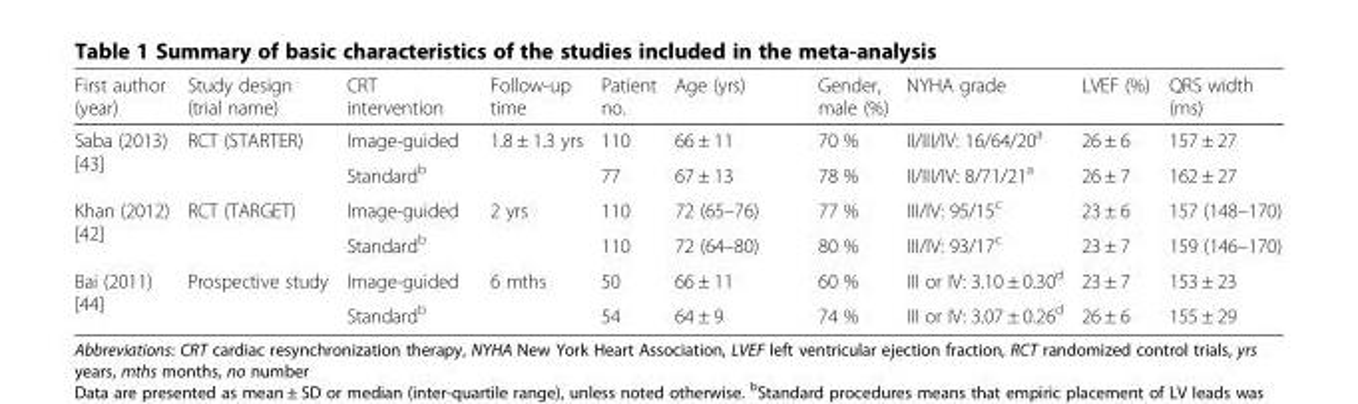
<table><thead><tr><td>First author (year)</td><td>Study design (trial name)</td><td>CRT intervention</td><td>Follow-up time</td><td>Patient no.</td><td>Age (yrs)</td><td>Gender, male (%)</td><td>NYHA grade</td><td>LVEF (%)</td><td>QRS width (ms)</td></tr></thead><tbody><tr><td rowspan="2">Saba (2013) [43]</td><td rowspan="2">RCT (STARTER)</td><td>Image-guided</td><td rowspan="2">1.8 ± 1.3 yrs</td><td>110</td><td>66 ± 11</td><td>70 %</td><td>II/III/IV: 16/64/20<sup>a</sup></td><td>26 ± 6</td><td>157 ± 27</td></tr><tr><td>Standard<sup>b</sup></td><td>77</td><td>67 ± 13</td><td>78 %</td><td>II/III/IV: 8/71/21<sup>a</sup></td><td>26 ± 7</td><td>162 ± 27</td></tr><tr><td rowspan="2">Khan (2012) [42]</td><td rowspan="2">RCT (TARGET)</td><td>Image-guided</td><td rowspan="2">2 yrs</td><td>110</td><td>72 (65–76)</td><td>77 %</td><td>III/IV: 95/15<sup>c</sup></td><td>23 ± 6</td><td>157 (148–170)</td></tr><tr><td>Standard<sup>b</sup></td><td>110</td><td>72 (64–80)</td><td>80 %</td><td>III/IV: 93/17<sup>c</sup></td><td>23 ± 7</td><td>159 (146–170)</td></tr><tr><td rowspan="2">Bai (2011) [44]</td><td rowspan="2">Prospective study</td><td>Image-guided</td><td rowspan="2">6 mths</td><td>50</td><td>66 ± 11</td><td>60 %</td><td>III or IV: 3.10 ± 0.30<sup>d</sup></td><td>23 ± 7</td><td>153 ± 23</td></tr><tr><td>Standard<sup>b</sup></td><td>54</td><td>64 ± 9</td><td>74 %</td><td>III or IV: 3.07 ± 0.26<sup>d</sup></td><td>26 ± 6</td><td>155 ± 29</td></tr></tbody></table>